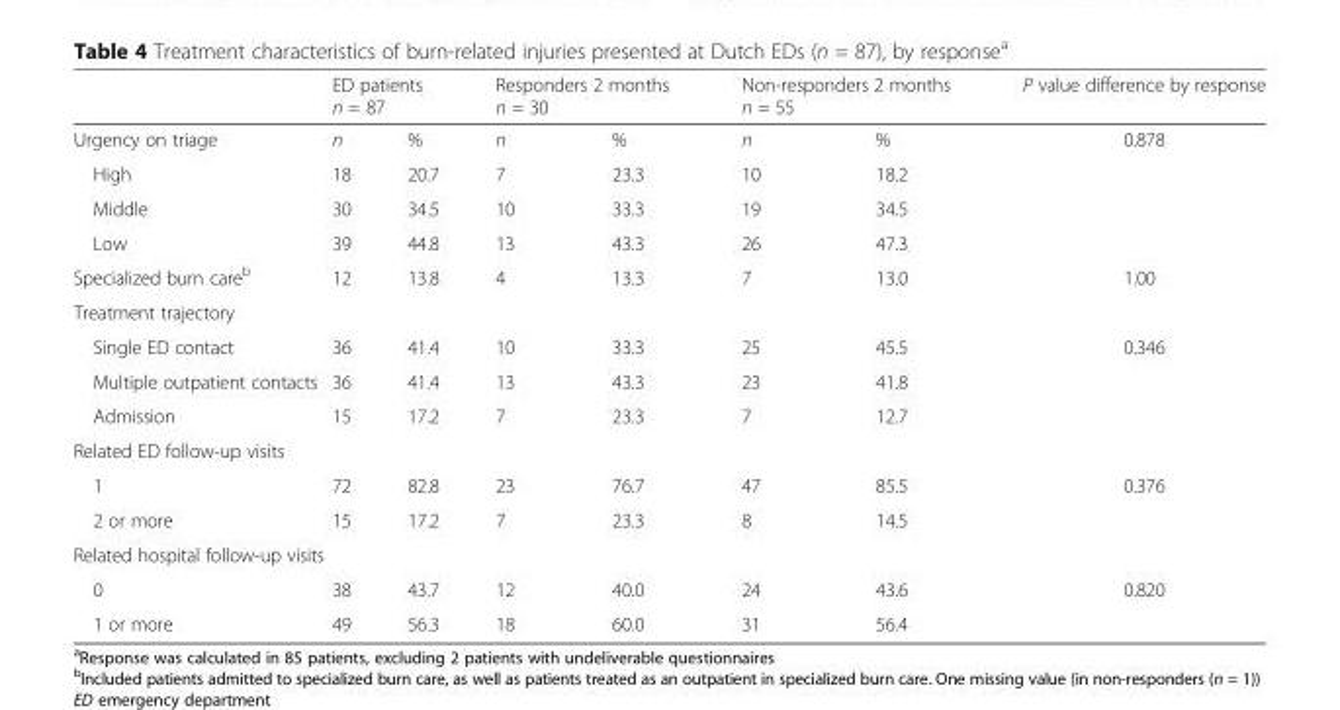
<table><thead><tr><td rowspan="2">Urgency on triage</td><td colspan="2">ED patients n = 87</td><td colspan="2">Responders 2 months n = 30</td><td colspan="2">Non-responders 2 months n = 55</td><td rowspan="2">P value difference by response 0.878</td></tr><tr><td>n</td><td>%</td><td>n</td><td>%</td><td>n</td><td>%</td></tr></thead><tbody><tr><td>High</td><td>18</td><td>20.7</td><td>7</td><td>23.3</td><td>10</td><td>18.2</td><td></td></tr><tr><td>Middle</td><td>30</td><td>34.5</td><td>10</td><td>33.3</td><td>19</td><td>34.5</td><td></td></tr><tr><td>Low</td><td>39</td><td>44.8</td><td>13</td><td>43.3</td><td>26</td><td>47.3</td><td></td></tr><tr><td>Specialized burn care<sup>b</sup></td><td>12</td><td>13.8</td><td>4</td><td>13.3</td><td>7</td><td>13.0</td><td>1.00</td></tr><tr><td colspan="8">Treatment trajectory</td></tr><tr><td>Single ED contact</td><td>36</td><td>41.4</td><td>10</td><td>33.3</td><td>25</td><td>45.5</td><td>0.346</td></tr><tr><td>Multiple outpatient contacts</td><td>36</td><td>41.4</td><td>13</td><td>43.3</td><td>23</td><td>41.8</td><td></td></tr><tr><td>Admission</td><td>15</td><td>17.2</td><td>7</td><td>23.3</td><td>7</td><td>12.7</td><td></td></tr><tr><td colspan="8">Related ED follow-up visits</td></tr><tr><td>1</td><td>72</td><td>82.8</td><td>23</td><td>76.7</td><td>47</td><td>85.5</td><td>0.376</td></tr><tr><td>2 or more</td><td>15</td><td>17.2</td><td>7</td><td>23.3</td><td>8</td><td>14.5</td><td></td></tr><tr><td colspan="8">Related hospital follow-up visits</td></tr><tr><td>0</td><td>38</td><td>43.7</td><td>12</td><td>40.0</td><td>24</td><td>43.6</td><td>0.820</td></tr><tr><td>1 or more</td><td>49</td><td>56.3</td><td>18</td><td>60.0</td><td>31</td><td>56.4</td><td></td></tr></tbody></table>